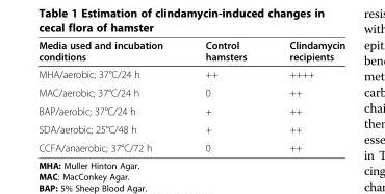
<table><thead><tr><td>Media used and incubation conditions</td><td>Control hamsters</td><td>Clindamycin recipients</td></tr></thead><tbody><tr><td>MHA/aerobic; 37°C/24 h</td><td>++</td><td>++++</td></tr><tr><td>MAC/aerobic; 37°C/24 h</td><td>0</td><td>++</td></tr><tr><td>BAP/aerobic; 37°C/24 h</td><td>+</td><td>++</td></tr><tr><td>SDA/aerobic; 25°C/48 h</td><td>+</td><td>++</td></tr><tr><td>CCFA/anaerobic; 37°C/72 h</td><td>0</td><td>++</td></tr></tbody></table>